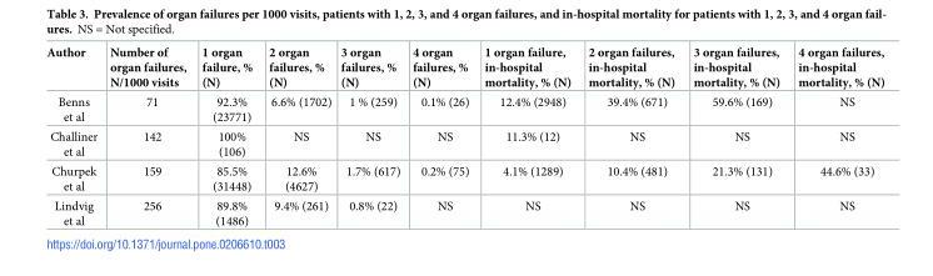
<table><thead><tr><td>Author</td><td>Number of organ failures, N/1000 visits</td><td>1 organ failure, % (N)</td><td>2 organ failures, % (N)</td><td>3 organ failures, % (N)</td><td>4 organ failures, % (N)</td><td>1 organ failure, in-hospital mortality, % (N)</td><td>2 organ failures, in-hospital mortality, % (N)</td><td>3 organ failures, in-hospital mortality, % (N)</td><td>4 organ failures, in-hospital mortality, % (N)</td></tr></thead><tbody><tr><td>Benns et al</td><td>71</td><td>92.3% (23771)</td><td>6.6% (1702)</td><td>1 % (259)</td><td>0.1% (26)</td><td>12.4% (2948)</td><td>39.4% (671)</td><td>59.6% (169)</td><td>NS</td></tr><tr><td>Challiner et al</td><td>142</td><td>100% (106)</td><td>NS</td><td>NS</td><td>NS</td><td>11.3% (12)</td><td>NS</td><td>NS</td><td>NS</td></tr><tr><td>Churpek et al</td><td>159</td><td>85.5% (31448)</td><td>12.6% (4627)</td><td>1.7% (617)</td><td>0.2% (75)</td><td>4.1% (1289)</td><td>10.4% (481)</td><td>21.3% (131)</td><td>44.6% (33)</td></tr><tr><td>Lindvig et al</td><td>256</td><td>89.8% (1486)</td><td>9.4% (261)</td><td>0.8% (22)</td><td>NS</td><td>NS</td><td>NS</td><td>NS</td><td>NS</td></tr></tbody></table>